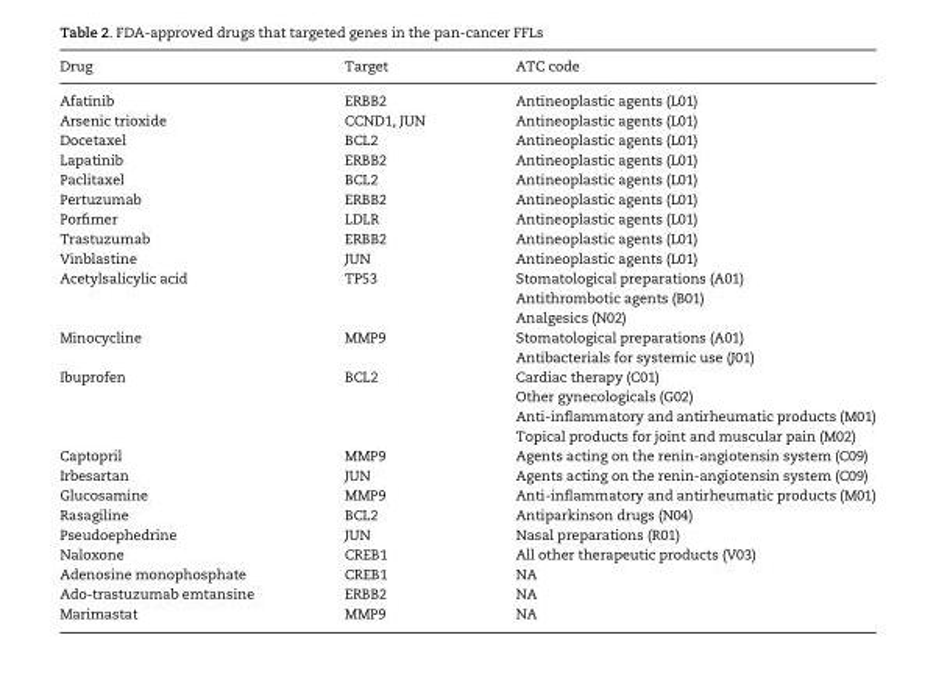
<table><thead><tr><td>Drug</td><td>Target</td><td>ATC code</td></tr></thead><tbody><tr><td>Afatinib</td><td>ERBB2</td><td>Antineoplastic agents (L01)</td></tr><tr><td>Arsenic trioxide</td><td>CCND1, JUN</td><td>Antineoplastic agents (L01)</td></tr><tr><td>Docetaxel</td><td>BCL2</td><td>Antineoplastic agents (L01)</td></tr><tr><td>Lapatinib</td><td>ERBB2</td><td>Antineoplastic agents (L01)</td></tr><tr><td>Paclitaxel</td><td>BCL2</td><td>Antineoplastic agents (L01)</td></tr><tr><td>Pertuzumab</td><td>ERBB2</td><td>Antineoplastic agents (L01)</td></tr><tr><td>Porfimer</td><td>LDLR</td><td>Antineoplastic agents (L01)</td></tr><tr><td>Trastuzumab</td><td>ERBB2</td><td>Antineoplastic agents (L01)</td></tr><tr><td>Vinblastine</td><td>JUN</td><td>Antineoplastic agents (L01)</td></tr><tr><td rowspan="3">Acetylsalicylic acid</td><td rowspan="3">TP53</td><td>Stomatological preparations (A01)</td></tr><tr><td>Antithrombotic agents (B01)</td></tr><tr><td>Analgesics (N02)</td></tr><tr><td rowspan="2">Minocycline</td><td rowspan="2">MMP9</td><td>Stomatological preparations (A01)</td></tr><tr><td>Antibacterials for systemic use (J01)</td></tr><tr><td rowspan="4">Ibuprofen</td><td rowspan="4">BCL2</td><td>Cardiac therapy (C01)</td></tr><tr><td>Other gynecologicals (G02)</td></tr><tr><td>Anti-inflammatory and antirheumatic products (M01)</td></tr><tr><td>Topical products for joint and muscular pain (M02)</td></tr><tr><td>Captopril</td><td>MMP9</td><td>Agents acting on the renin-angiotensin system (C09)</td></tr><tr><td>Irbesartan</td><td>JUN</td><td>Agents acting on the renin-angiotensin system (C09)</td></tr><tr><td>Glucosamine</td><td>MMP9</td><td>Anti-inflammatory and antirheumatic products (M01)</td></tr><tr><td>Rasagiline</td><td>BCL2</td><td>Antiparkinson drugs (N04)</td></tr><tr><td>Pseudoephedrine</td><td>JUN</td><td>Nasal preparations (R01)</td></tr><tr><td>Naloxone</td><td>CREB1</td><td>All other therapeutic products (V03)</td></tr><tr><td>Adenosine monophosphate</td><td>CREB1</td><td>NA</td></tr><tr><td>Ado-trastuzumab emtansine</td><td>ERBB2</td><td>NA</td></tr><tr><td>Marimastat</td><td>MMP9</td><td>NA</td></tr></tbody></table>